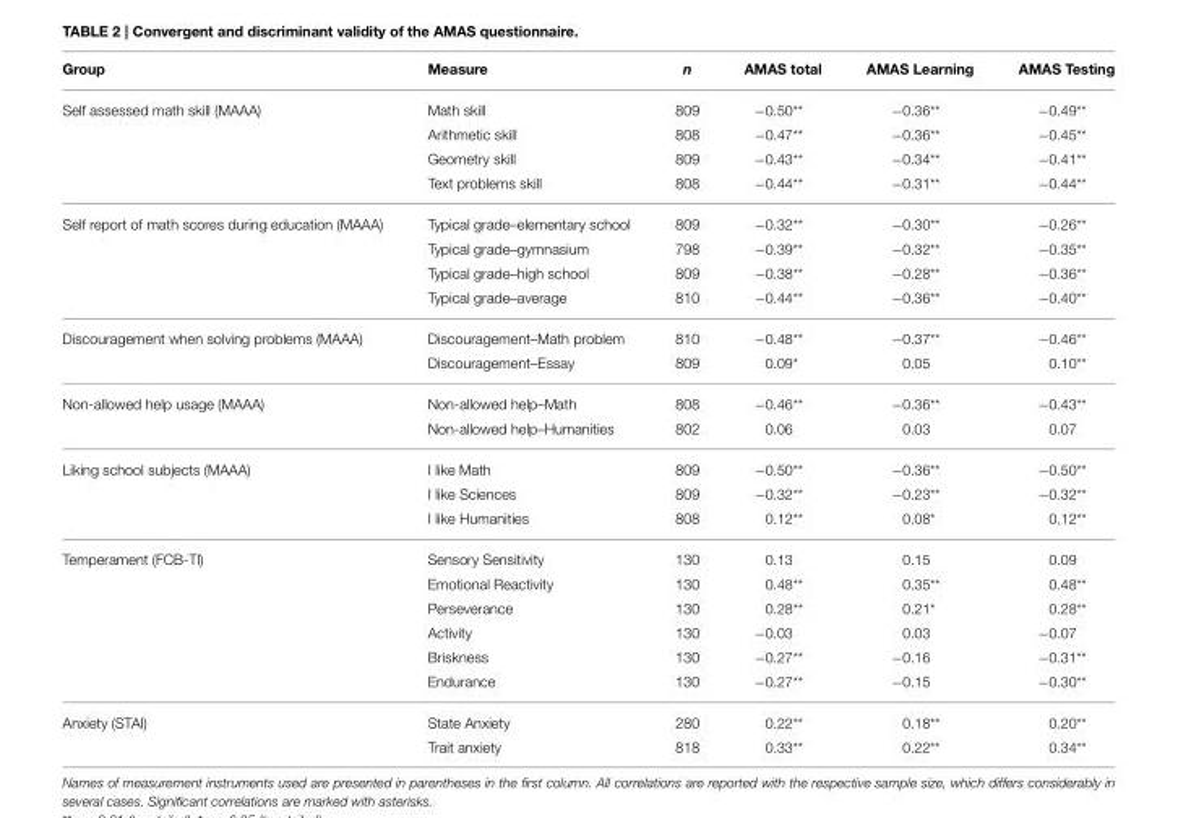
<table><thead><tr><td>Group</td><td>Measure</td><td>n</td><td>AMAS total</td><td>AMAS Learning</td><td>AMAS Testing</td></tr></thead><tbody><tr><td rowspan="4">Self assessed math skill (MAAA)</td><td>Math skill</td><td>809</td><td>−0.50**</td><td>−0.36**</td><td>−0.49**</td></tr><tr><td>Arithmetic skill</td><td>808</td><td>−0.47**</td><td>−0.36**</td><td>−0.45**</td></tr><tr><td>Geometry skill</td><td>809</td><td>−0.43**</td><td>−0.34**</td><td>−0.41**</td></tr><tr><td>Text problems skill</td><td>808</td><td>−0.44**</td><td>−0.31**</td><td>−0.44**</td></tr><tr><td rowspan="4">Self report of math scores during education (MAAA)</td><td>Typical grade–elementary school</td><td>809</td><td>−0.32**</td><td>−0.30**</td><td>−0.26**</td></tr><tr><td>Typical grade–gymnasium</td><td>798</td><td>−0.39**</td><td>−0.32**</td><td>−0.35**</td></tr><tr><td>Typical grade–high school</td><td>809</td><td>−0.38**</td><td>−0.28**</td><td>−0.36**</td></tr><tr><td>Typical grade–average</td><td>810</td><td>−0.44**</td><td>−0.36**</td><td>−0.40**</td></tr><tr><td rowspan="2">Discouragement when solving problems (MAAA)</td><td>Discouragement–Math problem</td><td>810</td><td>−0.48**</td><td>−0.37**</td><td>−0.46**</td></tr><tr><td>Discouragement–Essay</td><td>809</td><td>0.09*</td><td>0.05</td><td>0.10**</td></tr><tr><td rowspan="2">Non-allowed help usage (MAAA)</td><td>Non-allowed help–Math</td><td>808</td><td>−0.46**</td><td>−0.36**</td><td>−0.43**</td></tr><tr><td>Non-allowed help–Humanities</td><td>802</td><td>0.06</td><td>0.03</td><td>0.07</td></tr><tr><td rowspan="3">Liking school subjects (MAAA)</td><td>I like Math</td><td>809</td><td>−0.50**</td><td>−0.36**</td><td>−0.50**</td></tr><tr><td>I like Sciences</td><td>809</td><td>−0.32**</td><td>−0.23**</td><td>−0.32**</td></tr><tr><td>I like Humanities</td><td>808</td><td>0.12**</td><td>0.08*</td><td>0.12**</td></tr><tr><td rowspan="6">Temperament (FCB-TI)</td><td>Sensory Sensitivity</td><td>130</td><td>0.13</td><td>0.15</td><td>0.09</td></tr><tr><td>Emotional Reactivity</td><td>130</td><td>0.48**</td><td>0.35**</td><td>0.48**</td></tr><tr><td>Perseverance</td><td>130</td><td>0.28**</td><td>0.21*</td><td>0.28**</td></tr><tr><td>Activity</td><td>130</td><td>−0.03</td><td>0.03</td><td>−0.07</td></tr><tr><td>Briskness</td><td>130</td><td>−0.27**</td><td>−0.16</td><td>−0.31**</td></tr><tr><td>Endurance</td><td>130</td><td>−0.27**</td><td>−0.15</td><td>−0.30**</td></tr><tr><td rowspan="2">Anxiety (STAI)</td><td>State Anxiety</td><td>280</td><td>0.22**</td><td>0.18**</td><td>0.20**</td></tr><tr><td>Trait anxiety</td><td>818</td><td>0.33**</td><td>0.22**</td><td>0.34**</td></tr></tbody></table>